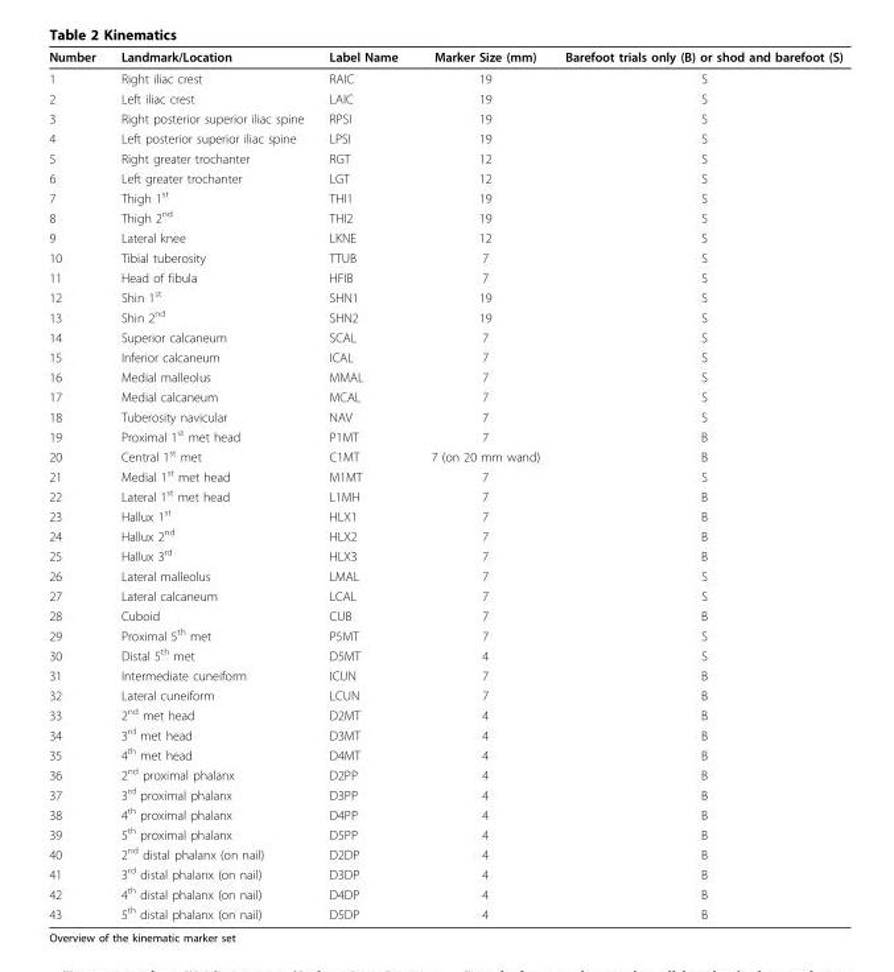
<table><thead><tr><td>Number</td><td>Landmark/Location</td><td>Label Name</td><td>Marker Size (mm)</td><td>Barefoot trials only (B) or shod and barefoot (S)</td></tr></thead><tbody><tr><td>1</td><td>Right iliac crest</td><td>RAIC</td><td>19</td><td>S</td></tr><tr><td>2</td><td>Left iliac crest</td><td>LAIC</td><td>19</td><td>S</td></tr><tr><td>3</td><td>Right posterior superior iliac spine</td><td>RPSI</td><td>19</td><td>S</td></tr><tr><td>4</td><td>Left posterior superior iliac spine</td><td>LPSI</td><td>19</td><td>S</td></tr><tr><td>5</td><td>Right greater trochanter</td><td>RGT</td><td>12</td><td>S</td></tr><tr><td>6</td><td>Left greater trochanter</td><td>LGT</td><td>12</td><td>S</td></tr><tr><td>7</td><td>Thigh 1<sup>st</sup></td><td>THI1</td><td>19</td><td>S</td></tr><tr><td>8</td><td>Thigh 2<sup>nd</sup></td><td>THI2</td><td>19</td><td>S</td></tr><tr><td>9</td><td>Lateral knee</td><td>LKNE</td><td>12</td><td>S</td></tr><tr><td>10</td><td>Tibial tuberosity</td><td>TTUB</td><td>7</td><td>S</td></tr><tr><td>11</td><td>Head of fibula</td><td>HFIB</td><td>7</td><td>S</td></tr><tr><td>12</td><td>Shin 1<sup>st</sup></td><td>SHN1</td><td>19</td><td>S</td></tr><tr><td>13</td><td>Shin 2<sup>nd</sup></td><td>SHN2</td><td>19</td><td>S</td></tr><tr><td>14</td><td>Superior calcaneum</td><td>SCAL</td><td>7</td><td>S</td></tr><tr><td>15</td><td>Inferior calcaneum</td><td>ICAL</td><td>7</td><td>S</td></tr><tr><td>16</td><td>Medial malleolus</td><td>MMAL</td><td>7</td><td>S</td></tr><tr><td>17</td><td>Medial calcaneum</td><td>MCAL</td><td>7</td><td>S</td></tr><tr><td>18</td><td>Tuberosity navicular</td><td>NAV</td><td>7</td><td>S</td></tr><tr><td>19</td><td>Proximal 1<sup>st</sup> met head</td><td>P1MT</td><td>7</td><td>B</td></tr><tr><td>20</td><td>Central 1<sup>st</sup> met</td><td>C1MT</td><td>7 (on 20 mm wand)</td><td>B</td></tr><tr><td>21</td><td>Medial 1<sup>st</sup> met head</td><td>M1MT</td><td>7</td><td>S</td></tr><tr><td>22</td><td>Lateral 1<sup>st</sup> met head</td><td>L1MH</td><td>7</td><td>B</td></tr><tr><td>23</td><td>Hallux 1<sup>st</sup></td><td>HLX1</td><td>7</td><td>B</td></tr><tr><td>24</td><td>Hallux 2<sup>nd</sup></td><td>HLX2</td><td>7</td><td>B</td></tr><tr><td>25</td><td>Hallux 3<sup>rd</sup></td><td>HLX3</td><td>7</td><td>B</td></tr><tr><td>26</td><td>Lateral malleolus</td><td>LMAL</td><td>7</td><td>S</td></tr><tr><td>27</td><td>Lateral calcaneum</td><td>LCAL</td><td>7</td><td>S</td></tr><tr><td>28</td><td>Cuboid</td><td>CUB</td><td>7</td><td>B</td></tr><tr><td>29</td><td>Proximal 5<sup>th</sup> met</td><td>P5MT</td><td>7</td><td>S</td></tr><tr><td>30</td><td>Distal 5<sup>th</sup> met</td><td>D5MT</td><td>4</td><td>S</td></tr><tr><td>31</td><td>Intermediate cuneiform</td><td>ICUN</td><td>7</td><td>B</td></tr><tr><td>32</td><td>Lateral cuneiform</td><td>LCUN</td><td>7</td><td>B</td></tr><tr><td>33</td><td>2<sup>nd</sup> met head</td><td>D2MT</td><td>4</td><td>B</td></tr><tr><td>34</td><td>3<sup>rd</sup> met head</td><td>D3MT</td><td>4</td><td>B</td></tr><tr><td>35</td><td>4<sup>th</sup> met head</td><td>D4MT</td><td>4</td><td>B</td></tr><tr><td>36</td><td>2<sup>nd</sup> proximal phalanx</td><td>D2PP</td><td>4</td><td>B</td></tr><tr><td>37</td><td>3<sup>rd</sup> proximal phalanx</td><td>D3PP</td><td>4</td><td>B</td></tr><tr><td>38</td><td>4<sup>th</sup> proximal phalanx</td><td>D4PP</td><td>4</td><td>B</td></tr><tr><td>39</td><td>5<sup>th</sup> proximal phalanx</td><td>D5PP</td><td>4</td><td>B</td></tr><tr><td>40</td><td>2<sup>nd</sup> distal phalanx (on nail)</td><td>D2DP</td><td>4</td><td>B</td></tr><tr><td>41</td><td>3<sup>rd</sup> distal phalanx (on nail)</td><td>D3DP</td><td>4</td><td>B</td></tr><tr><td>42</td><td>4<sup>th</sup> distal phalanx (on nail)</td><td>D4DP</td><td>4</td><td>B</td></tr><tr><td>43</td><td>5<sup>th</sup> distal phalanx (on nail)</td><td>D5DP</td><td>4</td><td>B</td></tr></tbody></table>